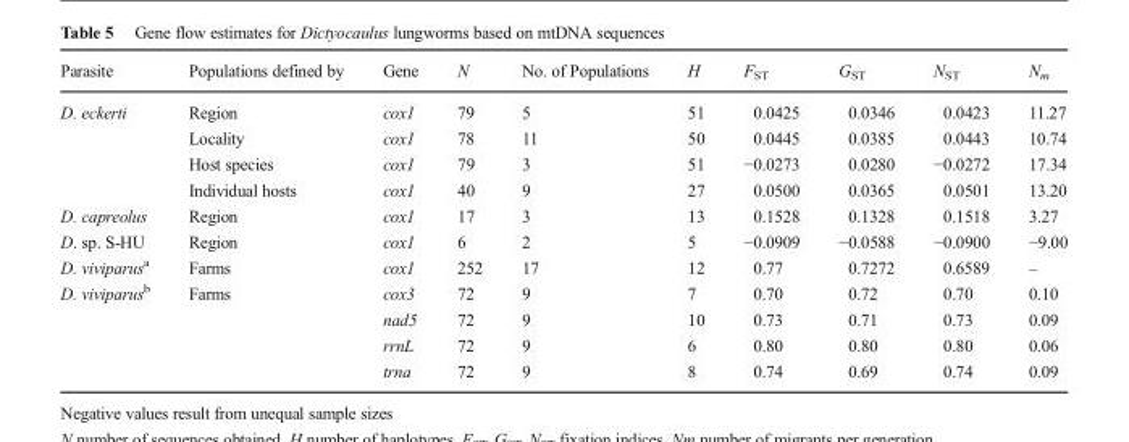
<table><thead><tr><td>Parasite</td><td>Populations defined by</td><td>Gene</td><td>N</td><td>No. of Populations</td><td>H</td><td>F<sub>ST</sub></td><td>G<sub>ST</sub></td><td>N<sub>ST</sub></td><td>N<sub>m</sub></td></tr></thead><tbody><tr><td rowspan="4">D. eckerti</td><td>Region</td><td>cox1</td><td>79</td><td>5</td><td>51</td><td>0.0425</td><td>0.0346</td><td>0.0423</td><td>11.27</td></tr><tr><td>Locality</td><td>cox1</td><td>78</td><td>11</td><td>50</td><td>0.0445</td><td>0.0385</td><td>0.0443</td><td>10.74</td></tr><tr><td>Host species</td><td>cox1</td><td>79</td><td>3</td><td>51</td><td>−0.0273</td><td>0.0280</td><td>−0.0272</td><td>17.34</td></tr><tr><td>Individual hosts</td><td>cox1</td><td>40</td><td>9</td><td>27</td><td>0.0500</td><td>0.0365</td><td>0.0501</td><td>13.20</td></tr><tr><td>D. capreolus</td><td>Region</td><td>cox1</td><td>17</td><td>3</td><td>13</td><td>0.1528</td><td>0.1328</td><td>0.1518</td><td>3.27</td></tr><tr><td>D. sp. S-HU</td><td>Region</td><td>cox1</td><td>6</td><td>2</td><td>5</td><td>−0.0909</td><td>−0.0588</td><td>−0.0900</td><td>−9.00</td></tr><tr><td>D. viviparus<sup>a</sup></td><td>Farms</td><td>cox1</td><td>252</td><td>17</td><td>12</td><td>0.77</td><td>0.7272</td><td>0.6589</td><td>–</td></tr><tr><td rowspan="4">D. viviparus<sup>b</sup></td><td rowspan="4">Farms</td><td>cox3</td><td>72</td><td>9</td><td>7</td><td>0.70</td><td>0.72</td><td>0.70</td><td>0.10</td></tr><tr><td>nad5</td><td>72</td><td>9</td><td>10</td><td>0.73</td><td>0.71</td><td>0.73</td><td>0.09</td></tr><tr><td>rrnL</td><td>72</td><td>9</td><td>6</td><td>0.80</td><td>0.80</td><td>0.80</td><td>0.06</td></tr><tr><td>trna</td><td>72</td><td>9</td><td>8</td><td>0.74</td><td>0.69</td><td>0.74</td><td>0.09</td></tr></tbody></table>